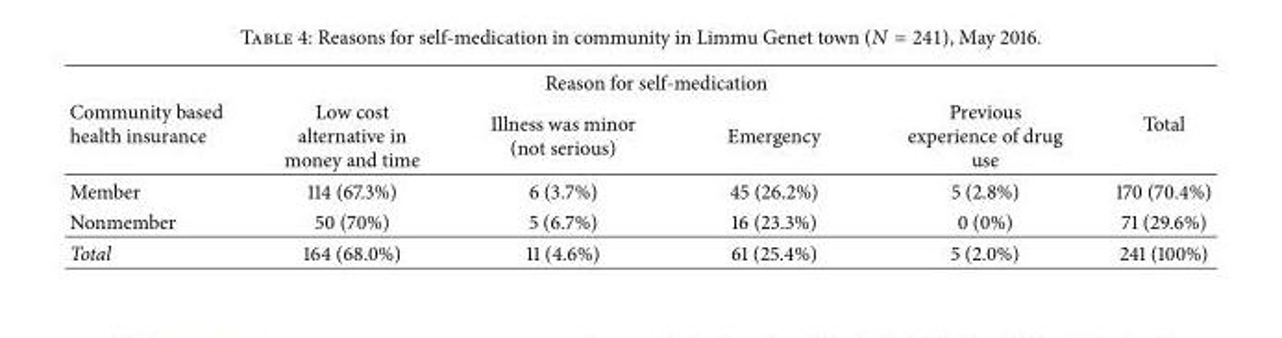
<table><thead><tr><td rowspan="2">Community based health insurance</td><td colspan="4">Reason for self-medication</td><td rowspan="2">Total</td></tr><tr><td>Low cost alternative in money and time</td><td>Illness was minor (not serious)</td><td>Emergency</td><td>Previous experience of drug use</td></tr></thead><tbody><tr><td>Member</td><td>114 (67.3%)</td><td>6 (3.7%)</td><td>45 (26.2%)</td><td>5 (2.8%)</td><td>170 (70.4%)</td></tr><tr><td>Nonmember</td><td>50 (70%)</td><td>5 (6.7%)</td><td>16 (23.3%)</td><td>0 (0%)</td><td>71 (29.6%)</td></tr><tr><td>Total</td><td>164 (68.0%)</td><td>11 (4.6%)</td><td>61 (25.4%)</td><td>5 (2.0%)</td><td>241 (100%)</td></tr></tbody></table>